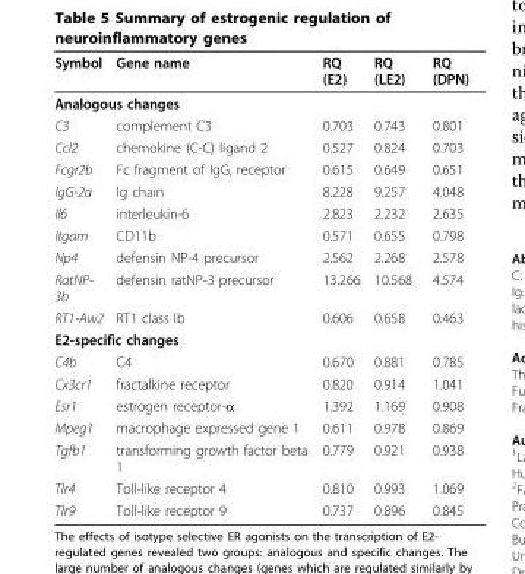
<table><thead><tr><td>Symbol</td><td>Gene name</td><td>RQ (E2)</td><td>RQ (LE2)</td><td>RQ (DPN)</td></tr></thead><tbody><tr><td colspan="5">Analogous changes</td></tr><tr><td>C3</td><td>complement C3</td><td>0.703</td><td>0.743</td><td>0.801</td></tr><tr><td>Ccl2</td><td>chemokine (C-C) ligand 2</td><td>0.527</td><td>0.824</td><td>0.703</td></tr><tr><td>Fcgr2b</td><td>Fc fragment of IgG, receptor</td><td>0.615</td><td>0.649</td><td>0.651</td></tr><tr><td>IgG-2a</td><td>Ig chain</td><td>8.228</td><td>9.257</td><td>4.048</td></tr><tr><td>Il6</td><td>interleukin-6</td><td>2.823</td><td>2.232</td><td>2.635</td></tr><tr><td>Itgam</td><td>CD11b</td><td>0.571</td><td>0.655</td><td>0.798</td></tr><tr><td>Np4</td><td>defensin NP-4 precursor</td><td>2.562</td><td>2.268</td><td>2.578</td></tr><tr><td>RatNP- 3b</td><td>defensin ratNP-3 precursor</td><td>13.266</td><td>10.568</td><td>4.574</td></tr><tr><td>RT1-Aw2</td><td>RT1 class Ib</td><td>0.606</td><td>0.658</td><td>0.463</td></tr><tr><td colspan="5">E2-specific changes</td></tr><tr><td>C4b</td><td>C4</td><td>0.670</td><td>0.881</td><td>0.785</td></tr><tr><td>Cx3cr1</td><td>fractalkine receptor</td><td>0.820</td><td>0.914</td><td>1.041</td></tr><tr><td>Esr1</td><td>estrogen receptor-α</td><td>1.392</td><td>1.169</td><td>0.908</td></tr><tr><td>Mpeg1</td><td>macrophage expressed gene 1</td><td>0.611</td><td>0.978</td><td>0.869</td></tr><tr><td>Tgfb1</td><td>transforming growth factor beta 1</td><td>0.779</td><td>0.921</td><td>0.938</td></tr><tr><td>Tlr4</td><td>Toll-like receptor 4</td><td>0.810</td><td>0.993</td><td>1.069</td></tr><tr><td>Tlr9</td><td>Toll-like receptor 9</td><td>0.737</td><td>0.896</td><td>0.845</td></tr></tbody></table>